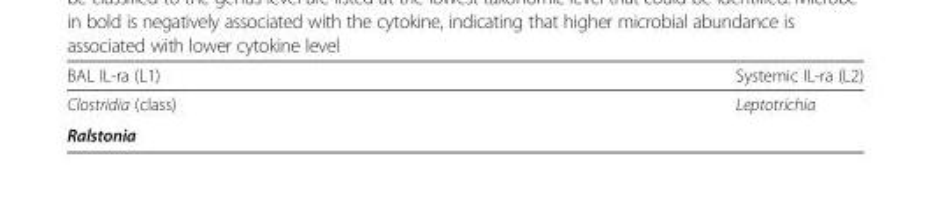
<table><thead><tr><td>BAL IL-ra (L1)</td><td>Systemic IL-ra (L2)</td></tr></thead><tbody><tr><td>Clostridia (class)</td><td>Leptotrichia</td></tr><tr><td>Ralstonia</td><td></td></tr></tbody></table>